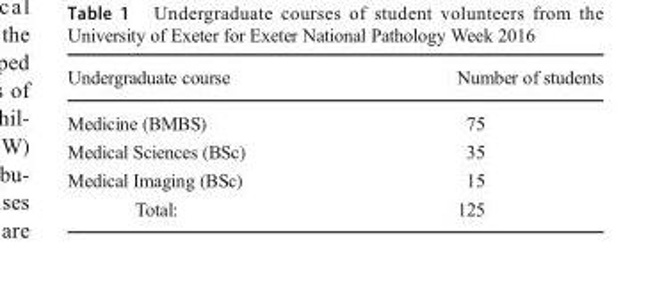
<table><thead><tr><td>Undergraduate course</td><td>Number of students</td></tr></thead><tbody><tr><td>Medicine (BMBS)</td><td>75</td></tr><tr><td>Medical Sciences (BSc)</td><td>35</td></tr><tr><td>Medical Imaging (BSc)</td><td>15</td></tr><tr><td>Total:</td><td>125</td></tr></tbody></table>